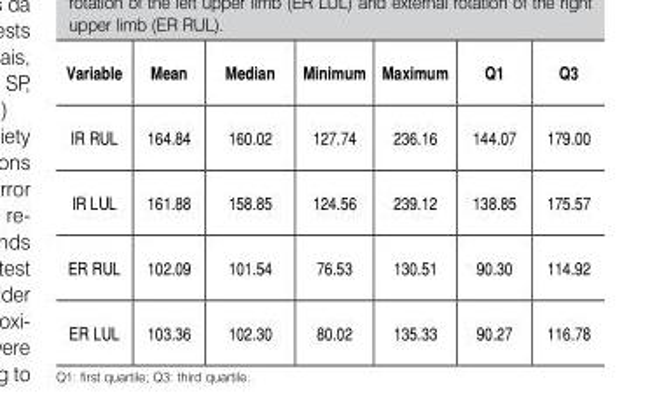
<table><thead><tr><td>Variable</td><td>Mean</td><td>Median</td><td>Minimum</td><td>Maximum</td><td>Q1</td><td>Q3</td></tr></thead><tbody><tr><td>IR RUL</td><td>164.84</td><td>160.02</td><td>127.74</td><td>236.16</td><td>144.07</td><td>179.00</td></tr><tr><td>IR LUL</td><td>161.88</td><td>158.85</td><td>124.56</td><td>239.12</td><td>138.85</td><td>175.57</td></tr><tr><td>ER RUL</td><td>102.09</td><td>101.54</td><td>76.53</td><td>130.51</td><td>90.30</td><td>114.92</td></tr><tr><td>ER LUL</td><td>103.36</td><td>102.30</td><td>80.02</td><td>135.33</td><td>90.27</td><td>116.78</td></tr></tbody></table>